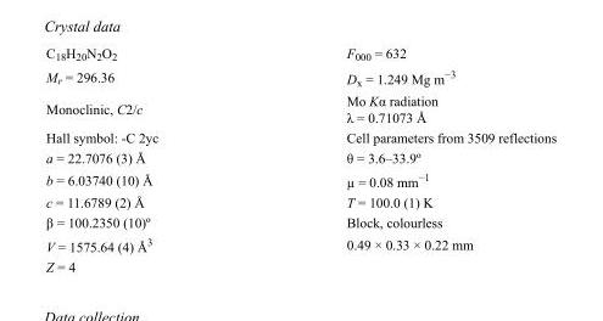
<table><tbody><tr><td>C<sub>18</sub>H<sub>20</sub>N<sub>2</sub>O<sub>2</sub></td><td>F<sub>000</sub> = 632</td></tr><tr><td>M<sub>r</sub> = 296.36</td><td>D<sub>x</sub> = 1.249 Mg m<sup>−3</sup></td></tr><tr><td>Monoclinic, C2/c</td><td>Mo Kα radiation λ = 0.71073 Å</td></tr><tr><td>Hall symbol: -C 2yc</td><td>Cell parameters from 3509 reflections</td></tr><tr><td>a = 22.7076 (3) Å</td><td>θ = 3.6–33.9º</td></tr><tr><td>b = 6.03740 (10) Å</td><td>µ = 0.08 mm<sup>−1</sup></td></tr><tr><td>c = 11.6789 (2) Å</td><td>T = 100.0 (1) K</td></tr><tr><td>β = 100.2350 (10)º</td><td>Block, colourless</td></tr><tr><td>V = 1575.64 (4) Å<sup>3</sup></td><td>0.49 × 0.33 × 0.22 mm</td></tr><tr><td>Z = 4</td><td></td></tr></tbody></table>